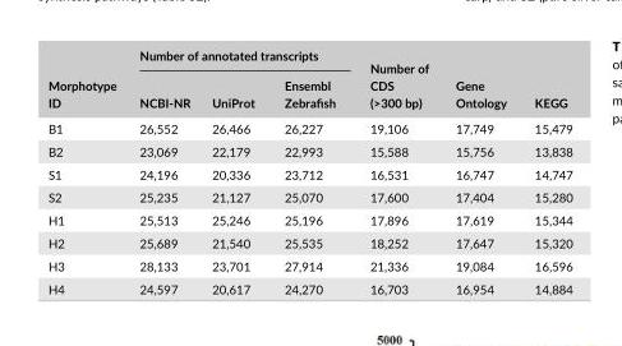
<table><thead><tr><td rowspan="2">Morphotype ID</td><td colspan="3">Number of annotated transcripts</td><td rowspan="2">Number of CDS (&gt;300 bp)</td><td rowspan="2">Gene Ontology</td><td rowspan="2">KEGG</td></tr><tr><td>NCBI- NR</td><td>UniProt</td><td>Ensembl Zebrafish</td></tr></thead><tbody><tr><td>B1</td><td>26,552</td><td>26,466</td><td>26,227</td><td>19,106</td><td>17,749</td><td>15,479</td></tr><tr><td>B2</td><td>23,069</td><td>22,179</td><td>22,993</td><td>15,588</td><td>15,756</td><td>13,838</td></tr><tr><td>S1</td><td>24,196</td><td>20,336</td><td>23,712</td><td>16,531</td><td>16,747</td><td>14,747</td></tr><tr><td>S2</td><td>25,235</td><td>21,127</td><td>25,070</td><td>17,600</td><td>17,404</td><td>15,280</td></tr><tr><td>H1</td><td>25,513</td><td>25,246</td><td>25,196</td><td>17,896</td><td>17,619</td><td>15,344</td></tr><tr><td>H2</td><td>25,689</td><td>21,540</td><td>25,535</td><td>18,252</td><td>17,647</td><td>15,320</td></tr><tr><td>H3</td><td>28,133</td><td>23,701</td><td>27,914</td><td>21,336</td><td>19,084</td><td>16,596</td></tr><tr><td>H4</td><td>24,597</td><td>20,617</td><td>24,270</td><td>16,703</td><td>16,954</td><td>14,884</td></tr></tbody></table>